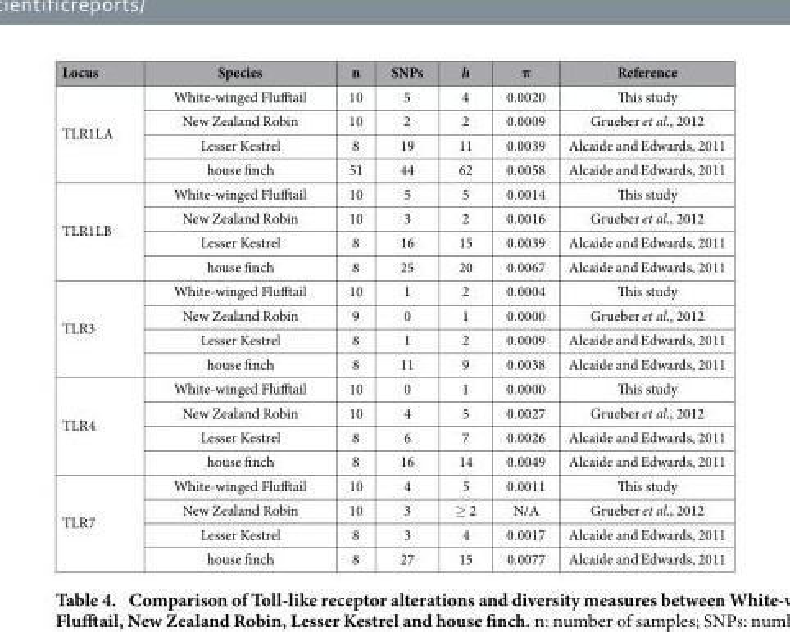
<table><thead><tr><td>Locus</td><td>Species</td><td>n</td><td>SNPs</td><td>h</td><td>π</td><td>Reference</td></tr></thead><tbody><tr><td rowspan="4">TLR1LA</td><td>White-winged Flufftail</td><td>10</td><td>5</td><td>4</td><td>0.0020</td><td>This study</td></tr><tr><td>New Zealand Robin</td><td>10</td><td>2</td><td>2</td><td>0.0009</td><td>Grueber et al., 2012</td></tr><tr><td>Lesser Kestrel</td><td>8</td><td>19</td><td>11</td><td>0.0039</td><td>Alcaide and Edwards, 2011</td></tr><tr><td>house finch</td><td>51</td><td>44</td><td>62</td><td>0.0058</td><td>Alcaide and Edwards, 2011</td></tr><tr><td rowspan="4">TLR1LB</td><td>White-winged Flufftail</td><td>10</td><td>5</td><td>5</td><td>0.0014</td><td>This study</td></tr><tr><td>New Zealand Robin</td><td>10</td><td>3</td><td>2</td><td>0.0016</td><td>Grueber et al., 2012</td></tr><tr><td>Lesser Kestrel</td><td>8</td><td>16</td><td>15</td><td>0.0039</td><td>Alcaide and Edwards, 2011</td></tr><tr><td>house finch</td><td>8</td><td>25</td><td>20</td><td>0.0067</td><td>Alcaide and Edwards, 2011</td></tr><tr><td rowspan="4">TLR3</td><td>White-winged Flufftail</td><td>10</td><td>1</td><td>2</td><td>0.0004</td><td>This study</td></tr><tr><td>New Zealand Robin</td><td>9</td><td>0</td><td>1</td><td>0.0000</td><td>Grueber et al., 2012</td></tr><tr><td>Lesser Kestrel</td><td>8</td><td>1</td><td>2</td><td>0.0009</td><td>Alcaide and Edwards, 2011</td></tr><tr><td>house finch</td><td>8</td><td>11</td><td>9</td><td>0.0038</td><td>Alcaide and Edwards, 2011</td></tr><tr><td rowspan="4">TLR4</td><td>White-winged Flufftail</td><td>10</td><td>0</td><td>1</td><td>0.0000</td><td>This study</td></tr><tr><td>New Zealand Robin</td><td>10</td><td>4</td><td>5</td><td>0.0027</td><td>Grueber et al., 2012</td></tr><tr><td>Lesser Kestrel</td><td>8</td><td>6</td><td>7</td><td>0.0026</td><td>Alcaide and Edwards, 2011</td></tr><tr><td>house finch</td><td>8</td><td>16</td><td>14</td><td>0.0049</td><td>Alcaide and Edwards, 2011</td></tr><tr><td rowspan="4">TLR7</td><td>White-winged Flufftail</td><td>10</td><td>4</td><td>5</td><td>0.0011</td><td>This study</td></tr><tr><td>New Zealand Robin</td><td>10</td><td>3</td><td>≥ 2</td><td>N/A</td><td>Grueber et al., 2012</td></tr><tr><td>Lesser Kestrel</td><td>8</td><td>3</td><td>4</td><td>0.0017</td><td>Alcaide and Edwards, 2011</td></tr><tr><td>house finch</td><td>8</td><td>27</td><td>15</td><td>0.0077</td><td>Alcaide and Edwards, 2011</td></tr></tbody></table>